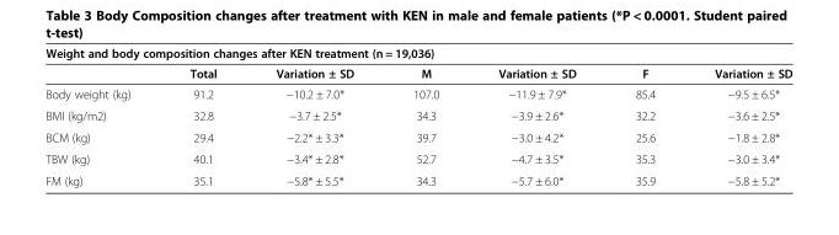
<table><thead><tr><td colspan="7">Weight and body composition changes after KEN treatment (n = 19,036)</td></tr><tr><td></td><td>Total</td><td>Variation ± SD</td><td>M</td><td>Variation ± SD</td><td>F</td><td>Variation ± SD</td></tr></thead><tbody><tr><td>Body weight (kg)</td><td>91.2</td><td>−10.2 ± 7.0*</td><td>107.0</td><td>−11.9 ± 7.9*</td><td>85.4</td><td>−9.5 ± 6.5*</td></tr><tr><td>BMI (kg/m2)</td><td>32.8</td><td>−3.7 ± 2.5*</td><td>34.3</td><td>−3.9 ± 2.6*</td><td>32.2</td><td>−3.6 ± 2.5*</td></tr><tr><td>BCM (kg)</td><td>29.4</td><td>−2.2* ± 3.3*</td><td>39.7</td><td>−3.0 ± 4.2*</td><td>25.6</td><td>−1.8 ± 2.8*</td></tr><tr><td>TBW (kg)</td><td>40.1</td><td>−3.4* ± 2.8*</td><td>52.7</td><td>−4.7 ± 3.5*</td><td>35.3</td><td>−3.0 ± 3.4*</td></tr><tr><td>FM (kg)</td><td>35.1</td><td>−5.8* ± 5.5*</td><td>34.3</td><td>−5.7 ± 6.0*</td><td>35.9</td><td>−5.8 ± 5.2*</td></tr></tbody></table>